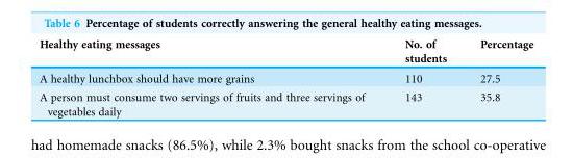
<table><thead><tr><td>Healthy eating messages</td><td>No. of students</td><td>Percentage</td></tr></thead><tbody><tr><td>A healthy lunchbox should have more grains</td><td>110</td><td>27.5</td></tr><tr><td>A person must consume two servings of fruits and three servings of vegetables daily</td><td>143</td><td>35.8</td></tr></tbody></table>